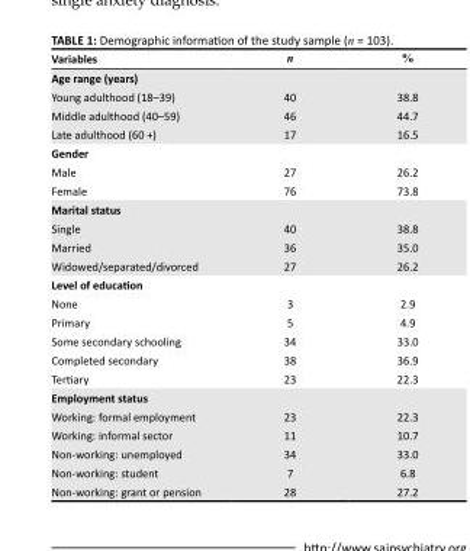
<table><thead><tr><td>Variables</td><td>n</td><td>%</td></tr></thead><tbody><tr><td colspan="3">Age range (years)</td></tr><tr><td>Young adulthood (18–39)</td><td>40</td><td>38.8</td></tr><tr><td>Middle adulthood (40–59)</td><td>46</td><td>44.7</td></tr><tr><td>Late adulthood (60 +)</td><td>17</td><td>16.5</td></tr><tr><td colspan="3">Gender</td></tr><tr><td>Male</td><td>27</td><td>26.2</td></tr><tr><td>Female</td><td>76</td><td>73.8</td></tr><tr><td colspan="3">Marital status</td></tr><tr><td>Single</td><td>40</td><td>38.8</td></tr><tr><td>Married</td><td>36</td><td>35.0</td></tr><tr><td>Widowed/separated/divorced</td><td>27</td><td>26.2</td></tr><tr><td colspan="3">Level of education</td></tr><tr><td>None</td><td>3</td><td>2.9</td></tr><tr><td>Primary</td><td>5</td><td>4.9</td></tr><tr><td>Some secondary schooling</td><td>34</td><td>33.0</td></tr><tr><td>Completed secondary</td><td>38</td><td>36.9</td></tr><tr><td>Tertiary</td><td>23</td><td>22.3</td></tr><tr><td colspan="3">Employment status</td></tr><tr><td>Working: formal employment</td><td>23</td><td>22.3</td></tr><tr><td>Working: informal sector</td><td>11</td><td>10.7</td></tr><tr><td>Non-working: unemployed</td><td>34</td><td>33.0</td></tr><tr><td>Non-working: student</td><td>7</td><td>6.8</td></tr><tr><td>Non-working: grant or pension</td><td>28</td><td>27.2</td></tr></tbody></table>